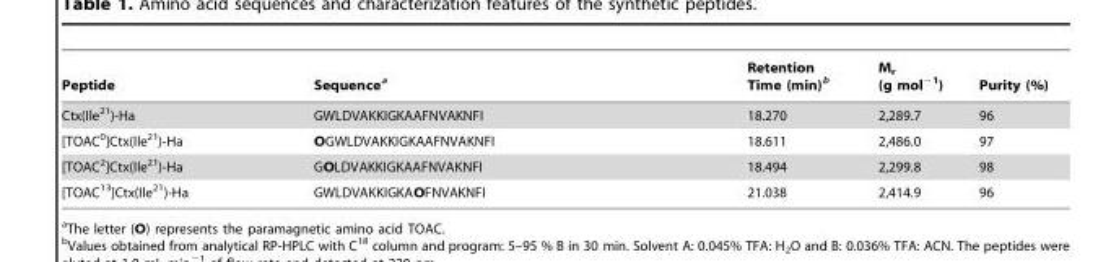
<table><thead><tr><td>Peptide</td><td>Sequence<sup>a</sup></td><td>Retention Time (min)<sup>b</sup></td><td>M<sub>r</sub> (g mol<sup>−1</sup>)</td><td>Purity (%)</td></tr></thead><tbody><tr><td>Ctx(Ile<sup>21</sup>)-Ha</td><td>GWLDVAKKIGKAAFNVAKNFI</td><td>18.270</td><td>2,289.7</td><td>96</td></tr><tr><td>[TOAC<sup>0</sup>]Ctx(Ile<sup>21</sup>)-Ha</td><td>OGWLDVAKKIGKAAFNVAKNFI</td><td>18.611</td><td>2,486.0</td><td>97</td></tr><tr><td>[TOAC<sup>2</sup>]Ctx(Ile<sup>21</sup>)-Ha</td><td>GOLDVAKKIGKAAFNVAKNFI</td><td>18.494</td><td>2,299.8</td><td>98</td></tr><tr><td>[TOAC<sup>13</sup>]Ctx(Ile<sup>21</sup>)-Ha</td><td>GWLDVAKKIGKAOFNVAKNFI</td><td>21.038</td><td>2,414.9</td><td>96</td></tr></tbody></table>